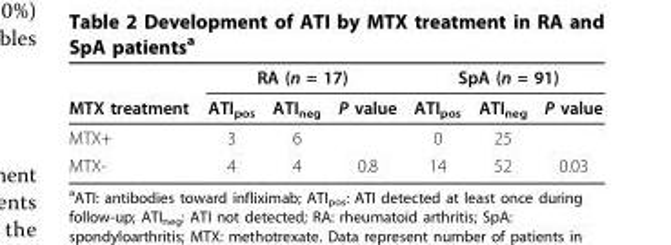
<table><thead><tr><td rowspan="2">MTX treatment</td><td colspan="3">RA (n = 17)</td><td colspan="3">SpA (n = 91)</td></tr><tr><td>ATI<sub>pos</sub></td><td>ATI<sub>neg</sub></td><td>P value</td><td>ATI<sub>pos</sub></td><td>ATI<sub>neg</sub></td><td>P value</td></tr></thead><tbody><tr><td>MTX+</td><td>3</td><td>6</td><td></td><td>0</td><td>25</td><td></td></tr><tr><td>MTX-</td><td>4</td><td>4</td><td>0.8</td><td>14</td><td>52</td><td>0.03</td></tr></tbody></table>